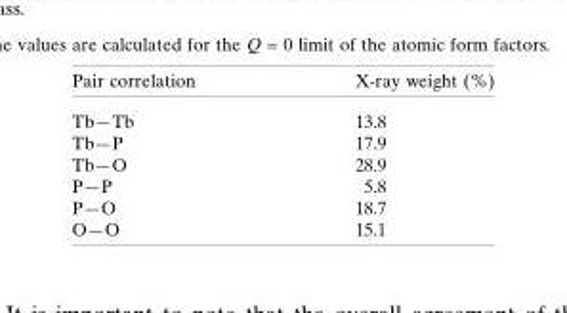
<table><thead><tr><td>Pair correlation</td><td>X-ray weight (%)</td></tr></thead><tbody><tr><td>Tb—Tb</td><td>13.8</td></tr><tr><td>Tb—P</td><td>17.9</td></tr><tr><td>Tb—O</td><td>28.9</td></tr><tr><td>P—P</td><td>5.8</td></tr><tr><td>P—O</td><td>18.7</td></tr><tr><td>O—O</td><td>15.1</td></tr></tbody></table>